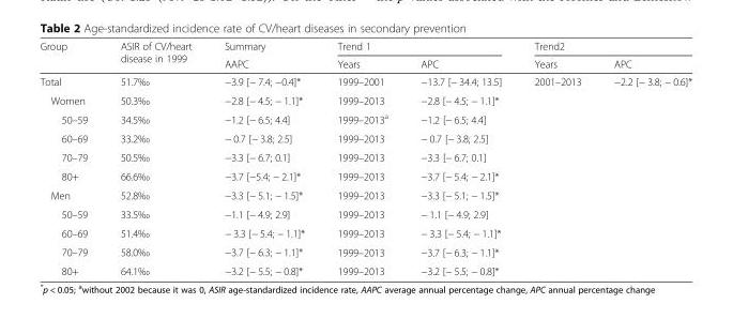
<table><thead><tr><td rowspan="2">Group</td><td rowspan="2">ASIR of CV/heart disease in 1999</td><td rowspan="2">Summary AAPC</td><td colspan="2">Trend 1</td><td colspan="2">Trend2</td></tr><tr><td>Years</td><td>APC</td><td>Years</td><td>APC</td></tr></thead><tbody><tr><td>Total</td><td>51.7‰</td><td>−3.9 [− 7.4; −0.4]*</td><td>1999–2001</td><td>−13.7 [− 34.4; 13.5]</td><td>2001–2013</td><td>−2.2 [− 3.8; − 0.6]*</td></tr><tr><td>Women</td><td>50.3‰</td><td>−2.8 [− 4.5; − 1.1]*</td><td>1999–2013</td><td>−2.8 [− 4.5; − 1.1]*</td><td></td><td></td></tr><tr><td>50–59</td><td>34.5‰</td><td>−1.2 [− 6.5; 4.4]</td><td>1999–2013<sup>a</sup></td><td>−1.2 [− 6.5; 4.4]</td><td></td><td></td></tr><tr><td>60–69</td><td>33.2‰</td><td>− 0.7 [− 3.8; 2.5]</td><td>1999–2013</td><td>− 0.7 [− 3.8; 2.5]</td><td></td><td></td></tr><tr><td>70–79</td><td>50.5‰</td><td>−3.3 [− 6.7; 0.1]</td><td>1999–2013</td><td>−3.3 [− 6.7; 0.1]</td><td></td><td></td></tr><tr><td>80+</td><td>66.6‰</td><td>−3.7 [−5.4; − 2.1]*</td><td>1999–2013</td><td>−3.7 [− 5.4; − 2.1]*</td><td></td><td></td></tr><tr><td>Men</td><td>52.8‰</td><td>−3.3 [− 5.1; − 1.5]*</td><td>1999–2013</td><td>−3.3 [− 5.1; − 1.5]*</td><td></td><td></td></tr><tr><td>50–59</td><td>33.5‰</td><td>−1.1 [− 4.9; 2.9]</td><td>1999–2013</td><td>− 1.1 [− 4.9; 2.9]</td><td></td><td></td></tr><tr><td>60–69</td><td>51.4‰</td><td>− 3.3 [− 5.4; − 1.1]*</td><td>1999–2013</td><td>− 3.3 [− 5.4; − 1.1]*</td><td></td><td></td></tr><tr><td>70–79</td><td>58.0‰</td><td>−3.7 [− 6.3; − 1.1]*</td><td>1999–2013</td><td>−3.7 [− 6.3; − 1.1]*</td><td></td><td></td></tr><tr><td>80+</td><td>64.1‰</td><td>−3.2 [− 5.5; − 0.8]*</td><td>1999–2013</td><td>−3.2 [− 5.5; − 0.8]*</td><td></td><td></td></tr></tbody></table>